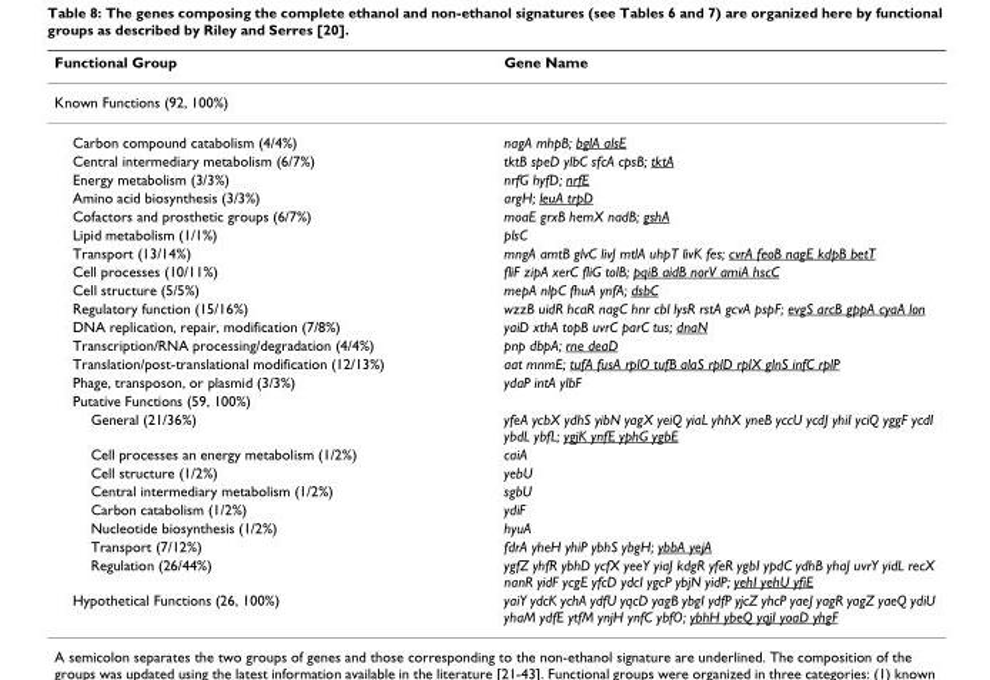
<table><thead><tr><td>Functional Group</td><td>Gene Name</td></tr></thead><tbody><tr><td colspan="2">Known Functions (92, 100%)</td></tr><tr><td>Carbon compound catabolism (4/4%)</td><td>nagA mhpB; bglA alsE</td></tr><tr><td>Central intermediary metabolism (6/7%)</td><td>tktB speD ylbC sfcA cpsB; tktA</td></tr><tr><td>Energy metabolism (3/3%)</td><td>nrfG hyfD; nrfE</td></tr><tr><td>Amino acid biosynthesis (3/3%)</td><td>argH; leuA trpD</td></tr><tr><td>Cofactors and prosthetic groups (6/7%)</td><td>moaE grxB hemX nadB; gshA</td></tr><tr><td>Lipid metabolism (1/1%)</td><td>plsC</td></tr><tr><td>Transport (13/14%)</td><td>mngA amtB glvC livJ mtlA uhpT livK fes; cvrA feoB nagE kdpB betT</td></tr><tr><td>Cell processes (10/11%)</td><td>fliF zipA xerC fliG tolB; pqiB aidB norV amiA hscC</td></tr><tr><td>Cell structure (5/5%)</td><td>mepA nlpC fhuA ynfA; dsbC</td></tr><tr><td>Regulatory function (15/16%)</td><td>wzzB uidR hcaR nagC hnr cbl lysR rstA gcvA pspF; evgS arcB gppA cyaA lon</td></tr><tr><td>DNA replication, repair, modification (7/8%)</td><td>yaiD xthA topB uvrC parC tus; dnaN</td></tr><tr><td>Transcription/RNA processing/degradation (4/4%)</td><td>pnp dbpA; rne deaD</td></tr><tr><td>Translation/post-translational modification (12/13%)</td><td>aat mnmE; tufA fusA rplO tufB alaS rplD rplX glnS infC rplP</td></tr><tr><td>Phage, transposon, or plasmid (3/3%)</td><td>ydaP intA ylbF</td></tr><tr><td colspan="2">Putative Functions (59, 100%)</td></tr><tr><td>General (21/36%)</td><td>yfeA ycbX ydhS yibN yagX yeiQ yiaL yhhX yneB yccU ycdJ yhiI yciQ yggF ycdI ybdL ybfL; ygjK ynfE yphG ygbE</td></tr><tr><td>Cell processes an energy metabolism (1/2%)</td><td>caiA</td></tr><tr><td>Cell structure (1/2%)</td><td>yebU</td></tr><tr><td>Central intermediary metabolism (1/2%)</td><td>sgbU</td></tr><tr><td>Carbon catabolism (1/2%)</td><td>ydiF</td></tr><tr><td>Nucleotide biosynthesis (1/2%)</td><td>hyuA</td></tr><tr><td>Transport (7/12%)</td><td>fdrA yheH yhiP ybhS ybgH; ybbA yejA</td></tr><tr><td>Regulation (26/44%)</td><td>ygfZ yhfR ybhD ycfX yeeY yiaJ kdgR yfeR ygbI ypdC ydhB yhaJ uvrY yidL recX nanR yidF ycgE yfcD ydcI ygcP ybjN yidP; yehI yehU yfiE</td></tr><tr><td>Hypothetical Functions (26, 100%)</td><td>yaiY ydcK ychA ydfU yqcD yagB ybgI ydfP yjcZ yhcP yaeJ yagR yagZ yaeQ ydiU yhaM ydfE ytfM ynjH ynfC ybfO; ybhH ybeQ yqjI yoaD yhgF</td></tr></tbody></table>